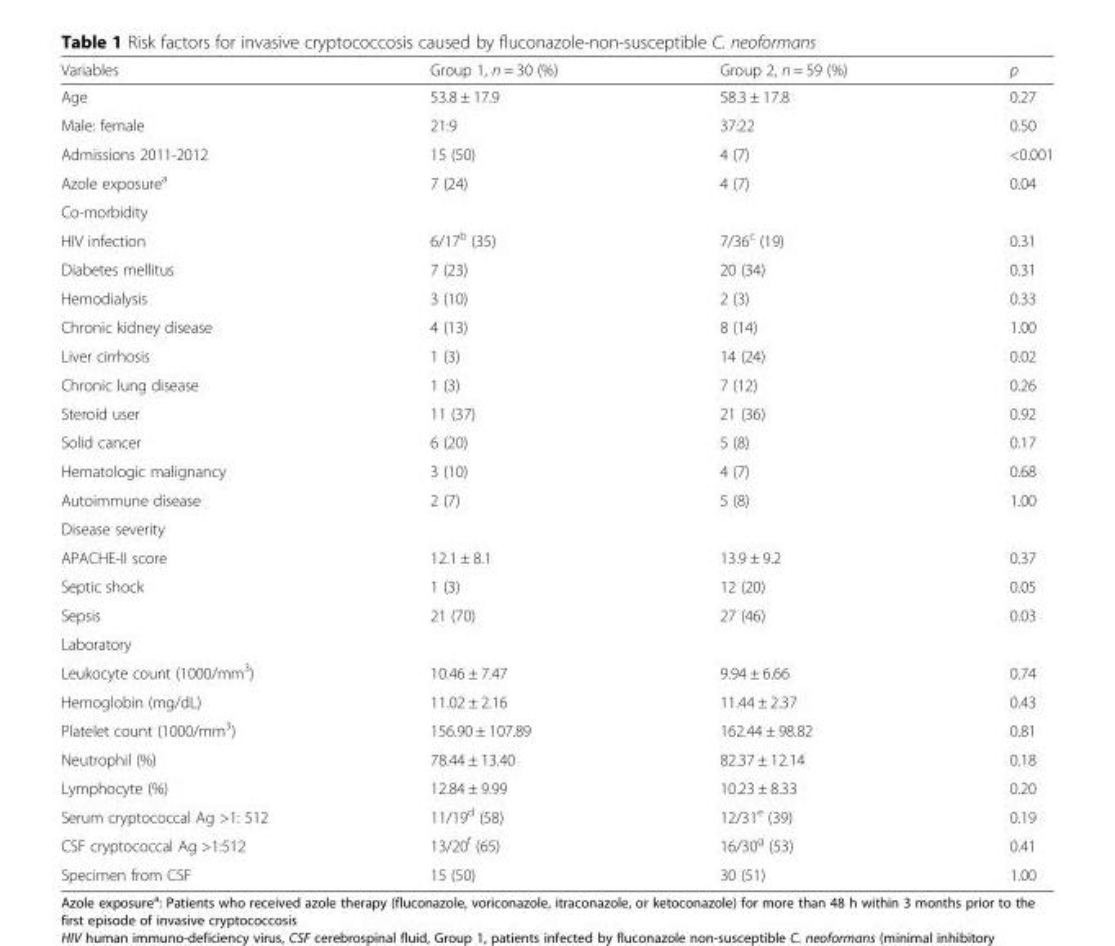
<table><thead><tr><td>Variables</td><td>Group 1, n = 30 (%)</td><td>Group 2, n = 59 (%)</td><td>p</td></tr></thead><tbody><tr><td>Age</td><td>53.8 ± 17.9</td><td>58.3 ± 17.8</td><td>0.27</td></tr><tr><td>Male: female</td><td>21:9</td><td>37:22</td><td>0.50</td></tr><tr><td>Admissions 2011-2012</td><td>15 (50)</td><td>4 (7)</td><td>&lt;0.001</td></tr><tr><td>Azole exposure<sup>a</sup></td><td>7 (24)</td><td>4 (7)</td><td>0.04</td></tr><tr><td colspan="4">Co-morbidity</td></tr><tr><td>HIV infection</td><td>6/17<sup>b</sup> (35)</td><td>7/36<sup>c</sup> (19)</td><td>0.31</td></tr><tr><td>Diabetes mellitus</td><td>7 (23)</td><td>20 (34)</td><td>0.31</td></tr><tr><td>Hemodialysis</td><td>3 (10)</td><td>2 (3)</td><td>0.33</td></tr><tr><td>Chronic kidney disease</td><td>4 (13)</td><td>8 (14)</td><td>1.00</td></tr><tr><td>Liver cirrhosis</td><td>1 (3)</td><td>14 (24)</td><td>0.02</td></tr><tr><td>Chronic lung disease</td><td>1 (3)</td><td>7 (12)</td><td>0.26</td></tr><tr><td>Steroid user</td><td>11 (37)</td><td>21 (36)</td><td>0.92</td></tr><tr><td>Solid cancer</td><td>6 (20)</td><td>5 (8)</td><td>0.17</td></tr><tr><td>Hematologic malignancy</td><td>3 (10)</td><td>4 (7)</td><td>0.68</td></tr><tr><td>Autoimmune disease</td><td>2 (7)</td><td>5 (8)</td><td>1.00</td></tr><tr><td colspan="4">Disease severity</td></tr><tr><td>APACHE-II score</td><td>12.1 ± 8.1</td><td>13.9 ± 9.2</td><td>0.37</td></tr><tr><td>Septic shock</td><td>1 (3)</td><td>12 (20)</td><td>0.05</td></tr><tr><td>Sepsis</td><td>21 (70)</td><td>27 (46)</td><td>0.03</td></tr><tr><td colspan="4">Laboratory</td></tr><tr><td>Leukocyte count (1000/mm<sup>3</sup>)</td><td>10.46 ± 7.47</td><td>9.94 ± 6.66</td><td>0.74</td></tr><tr><td>Hemoglobin (mg/dL)</td><td>11.02 ± 2.16</td><td>11.44 ± 2.37</td><td>0.43</td></tr><tr><td>Platelet count (1000/mm<sup>3</sup>)</td><td>156.90 ± 107.89</td><td>162.44 ± 98.82</td><td>0.81</td></tr><tr><td>Neutrophil (%)</td><td>78.44 ± 13.40</td><td>82.37 ± 12.14</td><td>0.18</td></tr><tr><td>Lymphocyte (%)</td><td>12.84 ± 9.99</td><td>10.23 ± 8.33</td><td>0.20</td></tr><tr><td>Serum cryptococcal Ag &gt;1: 512</td><td>11/19<sup>d</sup> (58)</td><td>12/31<sup>e</sup> (39)</td><td>0.19</td></tr><tr><td>CSF cryptococcal Ag &gt;1:512</td><td>13/20<sup>f</sup> (65)</td><td>16/30<sup>g</sup> (53)</td><td>0.41</td></tr><tr><td>Specimen from CSF</td><td>15 (50)</td><td>30 (51)</td><td>1.00</td></tr></tbody></table>